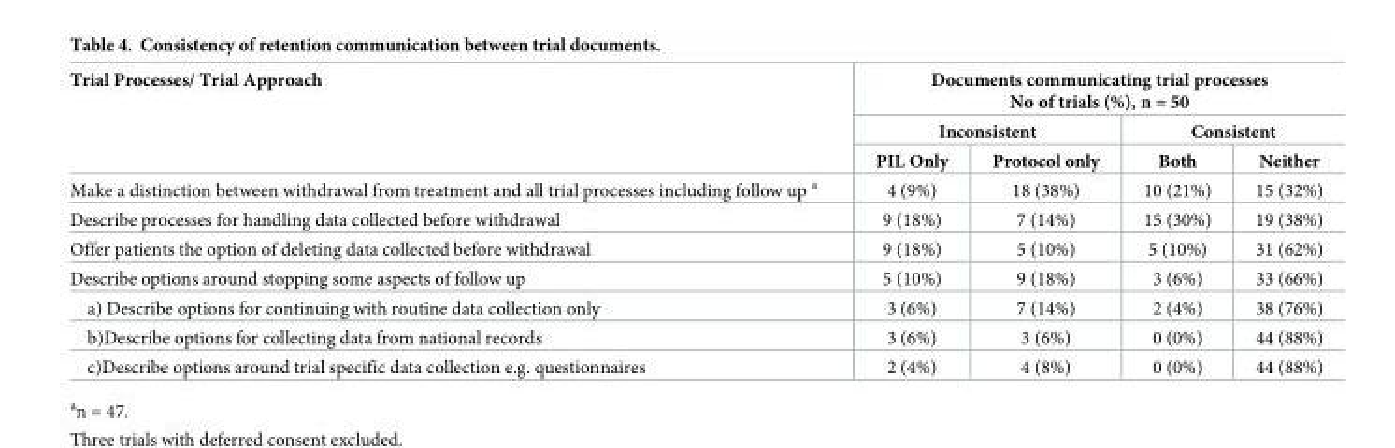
<table><thead><tr><td rowspan="3">Trial Processes/ Trial Approach</td><td colspan="4">Documents communicating trial processes No of trials (%), n = 50</td></tr><tr><td colspan="2">Inconsistent</td><td colspan="2">Consistent</td></tr><tr><td>PIL Only</td><td>Protocol only</td><td>Both</td><td>Neither</td></tr></thead><tbody><tr><td>Make a distinction between withdrawal from treatment and all trial processes including follow up <sup>a</sup></td><td>4 (9%)</td><td>18 (38%)</td><td>10 (21%)</td><td>15 (32%)</td></tr><tr><td>Describe processes for handling data collected before withdrawal</td><td>9 (18%)</td><td>7 (14%)</td><td>15 (30%)</td><td>19 (38%)</td></tr><tr><td>Offer patients the option of deleting data collected before withdrawal</td><td>9 (18%)</td><td>5 (10%)</td><td>5 (10%)</td><td>31 (62%)</td></tr><tr><td>Describe options around stopping some aspects of follow up</td><td>5 (10%)</td><td>9 (18%)</td><td>3 (6%)</td><td>33 (66%)</td></tr><tr><td>a) Describe options for continuing with routine data collection only</td><td>3 (6%)</td><td>7 (14%)</td><td>2 (4%)</td><td>38 (76%)</td></tr><tr><td>b)Describe options for collecting data from national records</td><td>3 (6%)</td><td>3 (6%)</td><td>0 (0%)</td><td>44 (88%)</td></tr><tr><td>c)Describe options around trial specific data collection e.g. questionnaires</td><td>2 (4%)</td><td>4 (8%)</td><td>0 (0%)</td><td>44 (88%)</td></tr></tbody></table>